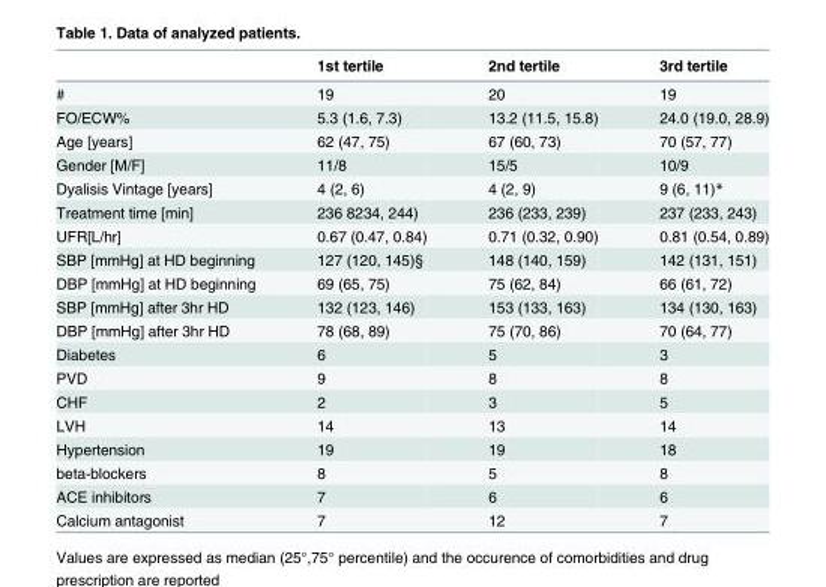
<table><thead><tr><td></td><td>1st tertile</td><td>2nd tertile</td><td>3rd tertile</td></tr></thead><tbody><tr><td>#</td><td>19</td><td>20</td><td>19</td></tr><tr><td>FO/ECW%</td><td>5.3 (1.6, 7.3)</td><td>13.2 (11.5, 15.8)</td><td>24.0 (19.0, 28.9)</td></tr><tr><td>Age [years]</td><td>62 (47, 75)</td><td>67 (60, 73)</td><td>70 (57, 77)</td></tr><tr><td>Gender [M/F]</td><td>11/8</td><td>15/5</td><td>10/9</td></tr><tr><td>Dyalisis Vintage [years]</td><td>4 (2, 6)</td><td>4 (2, 9)</td><td>9 (6, 11)*</td></tr><tr><td>Treatment time [min]</td><td>236 8234, 244)</td><td>236 (233, 239)</td><td>237 (233, 243)</td></tr><tr><td>UFR[L/hr]</td><td>0.67 (0.47, 0.84)</td><td>0.71 (0.32, 0.90)</td><td>0.81 (0.54, 0.89)</td></tr><tr><td>SBP [mmHg] at HD beginning</td><td>127 (120, 145)§</td><td>148 (140, 159)</td><td>142 (131, 151)</td></tr><tr><td>DBP [mmHg] at HD beginning</td><td>69 (65, 75)</td><td>75 (62, 84)</td><td>66 (61, 72)</td></tr><tr><td>SBP [mmHg] after 3hr HD</td><td>132 (123, 146)</td><td>153 (133, 163)</td><td>134 (130, 163)</td></tr><tr><td>DBP [mmHg] after 3hr HD</td><td>78 (68, 89)</td><td>75 (70, 86)</td><td>70 (64, 77)</td></tr><tr><td>Diabetes</td><td>6</td><td>5</td><td>3</td></tr><tr><td>PVD</td><td>9</td><td>8</td><td>8</td></tr><tr><td>CHF</td><td>2</td><td>3</td><td>5</td></tr><tr><td>LVH</td><td>14</td><td>13</td><td>14</td></tr><tr><td>Hypertension</td><td>19</td><td>19</td><td>18</td></tr><tr><td>beta-blockers</td><td>8</td><td>5</td><td>8</td></tr><tr><td>ACE inhibitors</td><td>7</td><td>6</td><td>6</td></tr><tr><td>Calcium antagonist</td><td>7</td><td>12</td><td>7</td></tr></tbody></table>